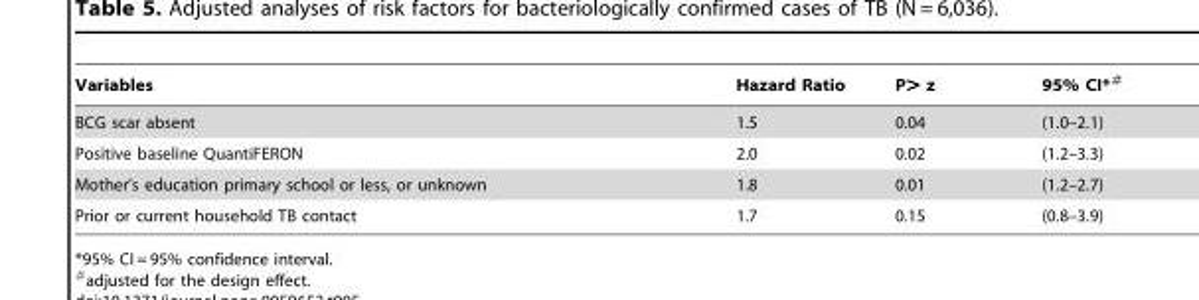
<table><thead><tr><td>Variables</td><td>Hazard Ratio</td><td>P&gt; z</td><td>95% CI*#</td></tr></thead><tbody><tr><td>BCG scar absent</td><td>1.5</td><td>0.04</td><td>(1.0–2.1)</td></tr><tr><td>Positive baseline QuantiFERON</td><td>2.0</td><td>0.02</td><td>(1.2–3.3)</td></tr><tr><td>Mother’s education primary school or less, or unknown</td><td>1.8</td><td>0.01</td><td>(1.2–2.7)</td></tr><tr><td>Prior or current household TB contact</td><td>1.7</td><td>0.15</td><td>(0.8–3.9)</td></tr></tbody></table>